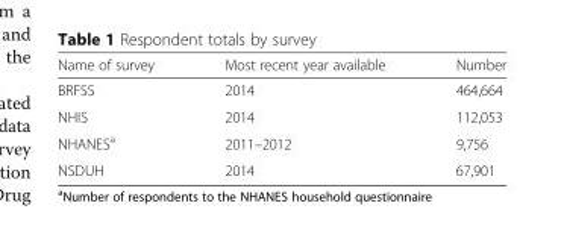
<table><thead><tr><td>Name of survey</td><td>Most recent year available</td><td>Number</td></tr></thead><tbody><tr><td>BRFSS</td><td>2014</td><td>464,664</td></tr><tr><td>NHIS</td><td>2014</td><td>112,053</td></tr><tr><td>NHANES<sup>a</sup></td><td>2011–2012</td><td>9,756</td></tr><tr><td>NSDUH</td><td>2014</td><td>67,901</td></tr></tbody></table>